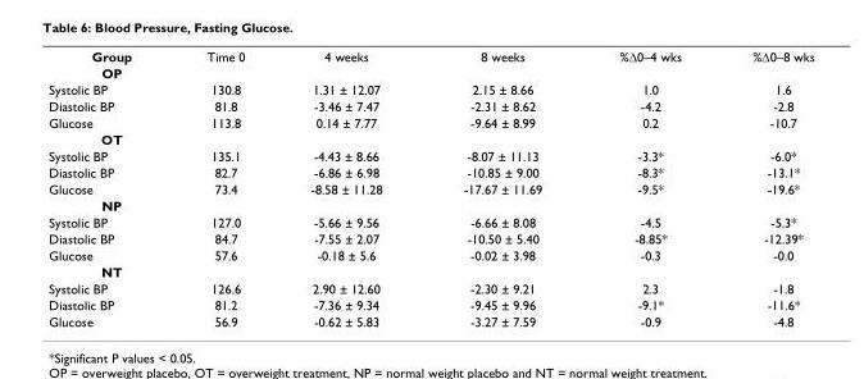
<table><tbody><tr><td>Group</td><td>Time 0</td><td>4 weeks</td><td>8 weeks</td><td>%∆0–4 wks</td><td>%∆0–8 wks</td></tr><tr><td colspan="6">OP</td></tr><tr><td>Systolic BP</td><td>130.8</td><td>1.31 ± 12.07</td><td>2.15 ± 8.66</td><td>1.0</td><td>1.6</td></tr><tr><td>Diastolic BP</td><td>81.8</td><td>-3.46 ± 7.47</td><td>-2.31 ± 8.62</td><td>-4.2</td><td>-2.8</td></tr><tr><td>Glucose</td><td>113.8</td><td>0.14 ± 7.77</td><td>-9.64 ± 8.99</td><td>0.2</td><td>-10.7</td></tr><tr><td colspan="6">OT</td></tr><tr><td>Systolic BP</td><td>135.1</td><td>-4.43 ± 8.66</td><td>-8.07 ± 11.13</td><td>-3.3*</td><td>-6.0*</td></tr><tr><td>Diastolic BP</td><td>82.7</td><td>-6.86 ± 6.98</td><td>-10.85 ± 9.00</td><td>-8.3*</td><td>-13.1*</td></tr><tr><td>Glucose</td><td>73.4</td><td>-8.58 ± 11.28</td><td>-17.67 ± 11.69</td><td>-9.5*</td><td>-19.6*</td></tr><tr><td colspan="6">NP</td></tr><tr><td>Systolic BP</td><td>127.0</td><td>-5.66 ± 9.56</td><td>-6.66 ± 8.08</td><td>-4.5</td><td>-5.3*</td></tr><tr><td>Diastolic BP</td><td>84.7</td><td>-7.55 ± 2.07</td><td>-10.50 ± 5.40</td><td>-8.85*</td><td>-12.39*</td></tr><tr><td>Glucose</td><td>57.6</td><td>-0.18 ± 5.6</td><td>-0.02 ± 3.98</td><td>-0.3</td><td>-0.0</td></tr><tr><td colspan="6">NT</td></tr><tr><td>Systolic BP</td><td>126.6</td><td>2.90 ± 12.60</td><td>-2.30 ± 9.21</td><td>2.3</td><td>-1.8</td></tr><tr><td>Diastolic BP</td><td>81.2</td><td>-7.36 ± 9.34</td><td>-9.45 ± 9.96</td><td>-9.1*</td><td>-11.6*</td></tr><tr><td>Glucose</td><td>56.9</td><td>-0.62 ± 5.83</td><td>-3.27 ± 7.59</td><td>-0.9</td><td>-4.8</td></tr></tbody></table>